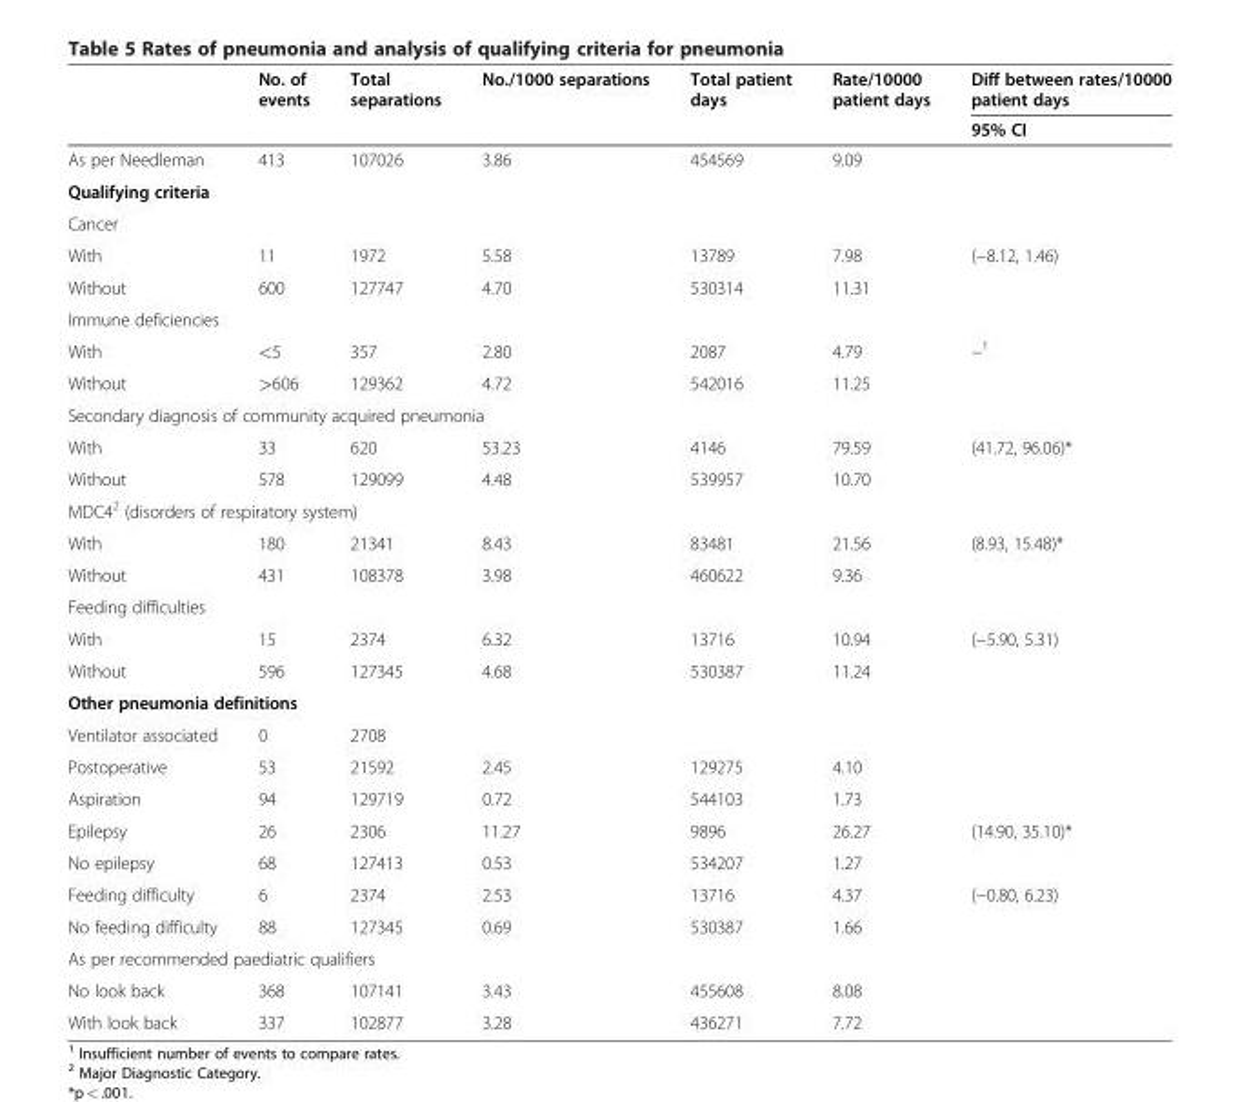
<table><thead><tr><td rowspan="2"></td><td rowspan="2">No. of events</td><td rowspan="2">Total separations</td><td rowspan="2">No./1000 separations</td><td rowspan="2">Total patient days</td><td rowspan="2">Rate/10000 patient days</td><td rowspan="2">Diff between rates/10000 patient days 95% CI</td></tr><tr></tr></thead><tbody><tr><td>As per Needleman</td><td>413</td><td>107026</td><td>3.86</td><td>454569</td><td>9.09</td><td></td></tr><tr><td colspan="7">Qualifying criteria</td></tr><tr><td colspan="7">Cancer</td></tr><tr><td>With</td><td>11</td><td>1972</td><td>5.58</td><td>13789</td><td>7.98</td><td rowspan="2">(−8.12, 1.46)</td></tr><tr><td>Without</td><td>600</td><td>127747</td><td>4.70</td><td>530314</td><td>11.31</td></tr><tr><td colspan="7">Immune deficiencies</td></tr><tr><td>With</td><td>&lt;5</td><td>357</td><td>2.80</td><td>2087</td><td>4.79</td><td rowspan="2">−<sup>1</sup></td></tr><tr><td>Without</td><td>&gt;606</td><td>129362</td><td>4.72</td><td>542016</td><td>11.25</td></tr><tr><td colspan="7">Secondary diagnosis of community acquired pneumonia</td></tr><tr><td>With</td><td>33</td><td>620</td><td>53.23</td><td>4146</td><td>79.59</td><td rowspan="2">(41.72, 96.06)*</td></tr><tr><td>Without</td><td>578</td><td>129099</td><td>4.48</td><td>539957</td><td>10.70</td></tr><tr><td colspan="7">MDC4<sup>2</sup> (disorders of respiratory system)</td></tr><tr><td>With</td><td>180</td><td>21341</td><td>8.43</td><td>83481</td><td>21.56</td><td rowspan="2">(8.93, 15.48)*</td></tr><tr><td>Without</td><td>431</td><td>108378</td><td>3.98</td><td>460622</td><td>9.36</td></tr><tr><td colspan="7">Feeding difficulties</td></tr><tr><td>With</td><td>15</td><td>2374</td><td>6.32</td><td>13716</td><td>10.94</td><td rowspan="2">(−5.90, 5.31)</td></tr><tr><td>Without</td><td>596</td><td>127345</td><td>4.68</td><td>530387</td><td>11.24</td></tr><tr><td colspan="7">Other pneumonia definitions</td></tr><tr><td>Ventilator associated</td><td>0</td><td>2708</td><td></td><td></td><td></td><td></td></tr><tr><td>Postoperative</td><td>53</td><td>21592</td><td>2.45</td><td>129275</td><td>4.10</td><td></td></tr><tr><td>Aspiration</td><td>94</td><td>129719</td><td>0.72</td><td>544103</td><td>1.73</td><td></td></tr><tr><td>Epilepsy</td><td>26</td><td>2306</td><td>11.27</td><td>9896</td><td>26.27</td><td rowspan="2">(14.90, 35.10)*</td></tr><tr><td>No epilepsy</td><td>68</td><td>127413</td><td>0.53</td><td>534207</td><td>1.27</td></tr><tr><td>Feeding difficulty</td><td>6</td><td>2374</td><td>2.53</td><td>13716</td><td>4.37</td><td rowspan="2">(−0.80, 6.23)</td></tr><tr><td>No feeding difficulty</td><td>88</td><td>127345</td><td>0.69</td><td>530387</td><td>1.66</td></tr><tr><td colspan="7">As per recommended paediatric qualifiers</td></tr><tr><td>No look back</td><td>368</td><td>107141</td><td>3.43</td><td>455608</td><td>8.08</td><td></td></tr><tr><td>With look back</td><td>337</td><td>102877</td><td>3.28</td><td>436271</td><td>7.72</td><td></td></tr></tbody></table>